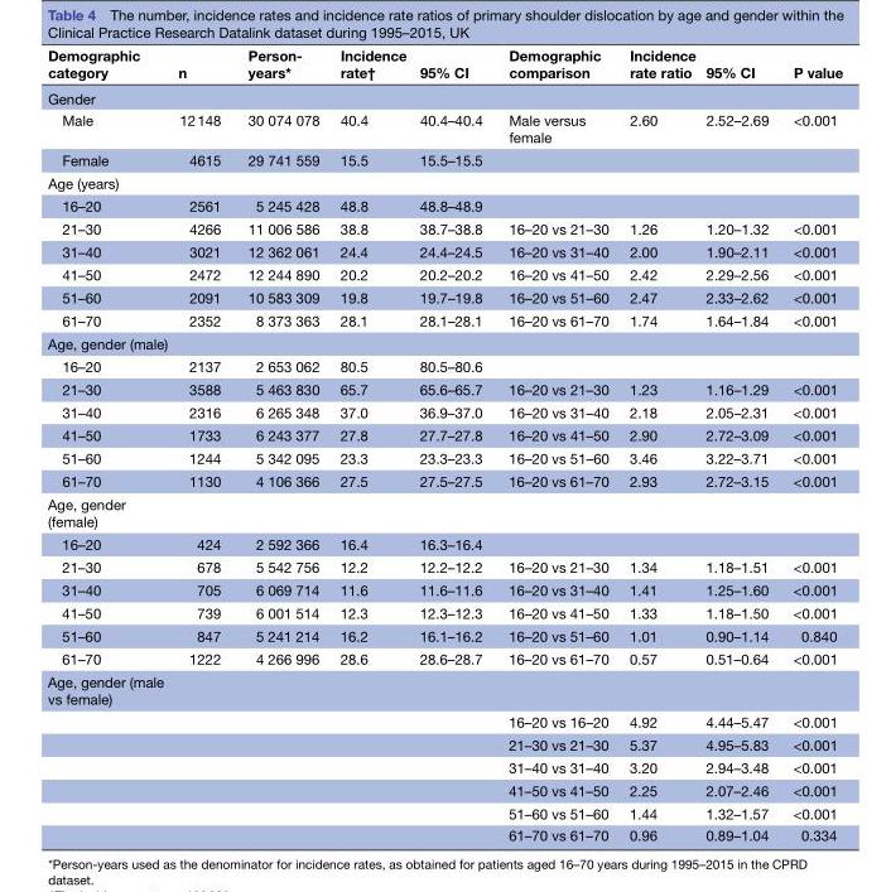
<table><thead><tr><td>Demographic category</td><td>n</td><td>Person- years*</td><td>Incidence rate†</td><td>95% CI</td><td>Demographic comparison</td><td>Incidence rate ratio</td><td>95% CI</td><td>P value</td></tr></thead><tbody><tr><td colspan="9">Gender</td></tr><tr><td>Male</td><td>12 148</td><td>30 074 078</td><td>40.4</td><td>40.4–40.4</td><td>Male versus female</td><td>2.60</td><td>2.52–2.69</td><td>&lt;0.001</td></tr><tr><td>Female</td><td>4615</td><td>29 741 559</td><td>15.5</td><td>15.5–15.5</td><td></td><td></td><td></td><td></td></tr><tr><td colspan="9">Age (years)</td></tr><tr><td>16–20</td><td>2561</td><td>5 245 428</td><td>48.8</td><td>48.8–48.9</td><td></td><td></td><td></td><td></td></tr><tr><td>21–30</td><td>4266</td><td>11 006 586</td><td>38.8</td><td>38.7–38.8</td><td>16–20 vs 21–30</td><td>1.26</td><td>1.20–1.32</td><td>&lt;0.001</td></tr><tr><td>31–40</td><td>3021</td><td>12 362 061</td><td>24.4</td><td>24.4–24.5</td><td>16–20 vs 31–40</td><td>2.00</td><td>1.90–2.11</td><td>&lt;0.001</td></tr><tr><td>41–50</td><td>2472</td><td>12 244 890</td><td>20.2</td><td>20.2–20.2</td><td>16–20 vs 41–50</td><td>2.42</td><td>2.29–2.56</td><td>&lt;0.001</td></tr><tr><td>51–60</td><td>2091</td><td>10 583 309</td><td>19.8</td><td>19.7–19.8</td><td>16–20 vs 51–60</td><td>2.47</td><td>2.33–2.62</td><td>&lt;0.001</td></tr><tr><td>61–70</td><td>2352</td><td>8 373 363</td><td>28.1</td><td>28.1–28.1</td><td>16–20 vs 61–70</td><td>1.74</td><td>1.64–1.84</td><td>&lt;0.001</td></tr><tr><td colspan="9">Age, gender (male)</td></tr><tr><td>16–20</td><td>2137</td><td>2 653 062</td><td>80.5</td><td>80.5–80.6</td><td></td><td></td><td></td><td></td></tr><tr><td>21–30</td><td>3588</td><td>5 463 830</td><td>65.7</td><td>65.6–65.7</td><td>16–20 vs 21–30</td><td>1.23</td><td>1.16–1.29</td><td>&lt;0.001</td></tr><tr><td>31–40</td><td>2316</td><td>6 265 348</td><td>37.0</td><td>36.9–37.0</td><td>16–20 vs 31–40</td><td>2.18</td><td>2.05–2.31</td><td>&lt;0.001</td></tr><tr><td>41–50</td><td>1733</td><td>6 243 377</td><td>27.8</td><td>27.7–27.8</td><td>16–20 vs 41–50</td><td>2.90</td><td>2.72–3.09</td><td>&lt;0.001</td></tr><tr><td>51–60</td><td>1244</td><td>5 342 095</td><td>23.3</td><td>23.3–23.3</td><td>16–20 vs 51–60</td><td>3.46</td><td>3.22–3.71</td><td>&lt;0.001</td></tr><tr><td>61–70</td><td>1130</td><td>4 106 366</td><td>27.5</td><td>27.5–27.5</td><td>16–20 vs 61–70</td><td>2.93</td><td>2.72–3.15</td><td>&lt;0.001</td></tr><tr><td colspan="9">Age, gender (female)</td></tr><tr><td>16–20</td><td>424</td><td>2 592 366</td><td>16.4</td><td>16.3–16.4</td><td></td><td></td><td></td><td></td></tr><tr><td>21–30</td><td>678</td><td>5 542 756</td><td>12.2</td><td>12.2–12.2</td><td>16–20 vs 21–30</td><td>1.34</td><td>1.18–1.51</td><td>&lt;0.001</td></tr><tr><td>31–40</td><td>705</td><td>6 069 714</td><td>11.6</td><td>11.6–11.6</td><td>16–20 vs 31–40</td><td>1.41</td><td>1.25–1.60</td><td>&lt;0.001</td></tr><tr><td>41–50</td><td>739</td><td>6 001 514</td><td>12.3</td><td>12.3–12.3</td><td>16–20 vs 41–50</td><td>1.33</td><td>1.18–1.50</td><td>&lt;0.001</td></tr><tr><td>51–60</td><td>847</td><td>5 241 214</td><td>16.2</td><td>16.1–16.2</td><td>16–20 vs 51–60</td><td>1.01</td><td>0.90–1.14</td><td>0.840</td></tr><tr><td>61–70</td><td>1222</td><td>4 266 996</td><td>28.6</td><td>28.6–28.7</td><td>16–20 vs 61–70</td><td>0.57</td><td>0.51–0.64</td><td>&lt;0.001</td></tr><tr><td colspan="9">Age, gender (male vs female)</td></tr><tr><td></td><td></td><td></td><td></td><td></td><td>16–20 vs 16–20</td><td>4.92</td><td>4.44–5.47</td><td>&lt;0.001</td></tr><tr><td></td><td></td><td></td><td></td><td></td><td>21–30 vs 21–30</td><td>5.37</td><td>4.95–5.83</td><td>&lt;0.001</td></tr><tr><td></td><td></td><td></td><td></td><td></td><td>31–40 vs 31–40</td><td>3.20</td><td>2.94–3.48</td><td>&lt;0.001</td></tr><tr><td></td><td></td><td></td><td></td><td></td><td>41–50 vs 41–50</td><td>2.25</td><td>2.07–2.46</td><td>&lt;0.001</td></tr><tr><td></td><td></td><td></td><td></td><td></td><td>51–60 vs 51–60</td><td>1.44</td><td>1.32–1.57</td><td>&lt;0.001</td></tr><tr><td></td><td></td><td></td><td></td><td></td><td>61–70 vs 61–70</td><td>0.96</td><td>0.89–1.04</td><td>0.334</td></tr></tbody></table>